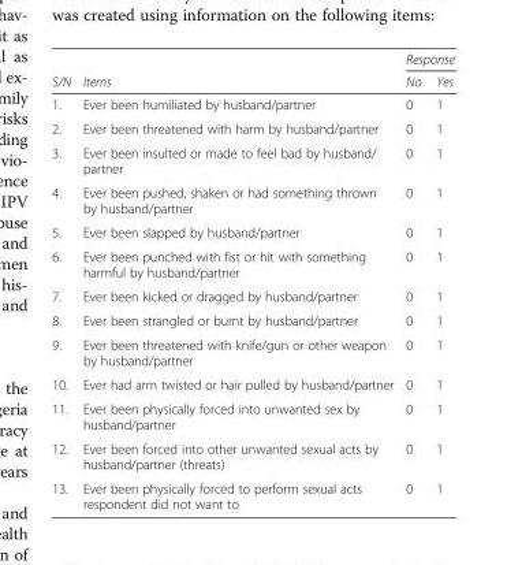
<table><thead><tr><td rowspan="2">S/N</td><td rowspan="2">Items</td><td colspan="2">Response</td></tr><tr><td>No</td><td>Yes</td></tr></thead><tbody><tr><td>1.</td><td>Ever been humiliated by husband/partner</td><td>0</td><td>1</td></tr><tr><td>2.</td><td>Ever been threatened with harm by husband/partner</td><td>0</td><td>1</td></tr><tr><td>3.</td><td>Ever been insulted or made to feel bad by husband/ partner</td><td>0</td><td>1</td></tr><tr><td>4.</td><td>Ever been pushed, shaken or had something thrown by husband/partner</td><td>0</td><td>1</td></tr><tr><td>5.</td><td>Ever been slapped by husband/partner</td><td>0</td><td>1</td></tr><tr><td>6.</td><td>Ever been punched with fist or hit with something harmful by husband/partner</td><td>0</td><td>1</td></tr><tr><td>7.</td><td>Ever been kicked or dragged by husband/partner</td><td>0</td><td>1</td></tr><tr><td>8.</td><td>Ever been strangled or burnt by husband/partner</td><td>0</td><td>1</td></tr><tr><td>9.</td><td>Ever been threatened with knife/gun or other weapon by husband/partner</td><td>0</td><td>1</td></tr><tr><td>10.</td><td>Ever had arm twisted or hair pulled by husband/partner</td><td>0</td><td>1</td></tr><tr><td>11.</td><td>Ever been physically forced into unwanted sex by husband/partner</td><td>0</td><td>1</td></tr><tr><td>12.</td><td>Ever been forced into other unwanted sexual acts by husband/partner (threats)</td><td>0</td><td>1</td></tr><tr><td>13.</td><td>Ever been physically forced to perform sexual acts respondent did not want to</td><td>0</td><td>1</td></tr></tbody></table>